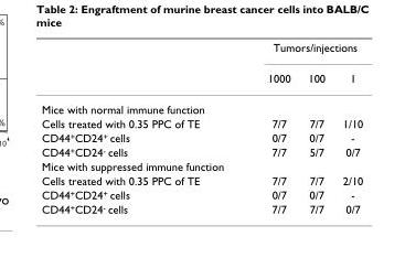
<table><thead><tr><td rowspan="2"></td><td colspan="3">Tumors/injections</td></tr><tr><td>1000</td><td>100</td><td>1</td></tr></thead><tbody><tr><td colspan="4">Mice with normal immune function</td></tr><tr><td>Cells treated with 0.35 PPC of TE</td><td>7/7</td><td>7/7</td><td>1/10</td></tr><tr><td>CD44<sup>+</sup>CD24<sup>+</sup> cells</td><td>0/7</td><td>0/7</td><td>-</td></tr><tr><td>CD44<sup>+</sup>CD24<sup>-</sup> cells</td><td>7/7</td><td>5/7</td><td>0/7</td></tr><tr><td colspan="4">Mice with suppressed immune function</td></tr><tr><td>Cells treated with 0.35 PPC of TE</td><td>7/7</td><td>7/7</td><td>2/10</td></tr><tr><td>CD44<sup>+</sup>CD24<sup>+</sup> cells</td><td>0/7</td><td>0/7</td><td>-</td></tr><tr><td>CD44<sup>+</sup>CD24<sup>-</sup> cells</td><td>7/7</td><td>7/7</td><td>0/7</td></tr></tbody></table>